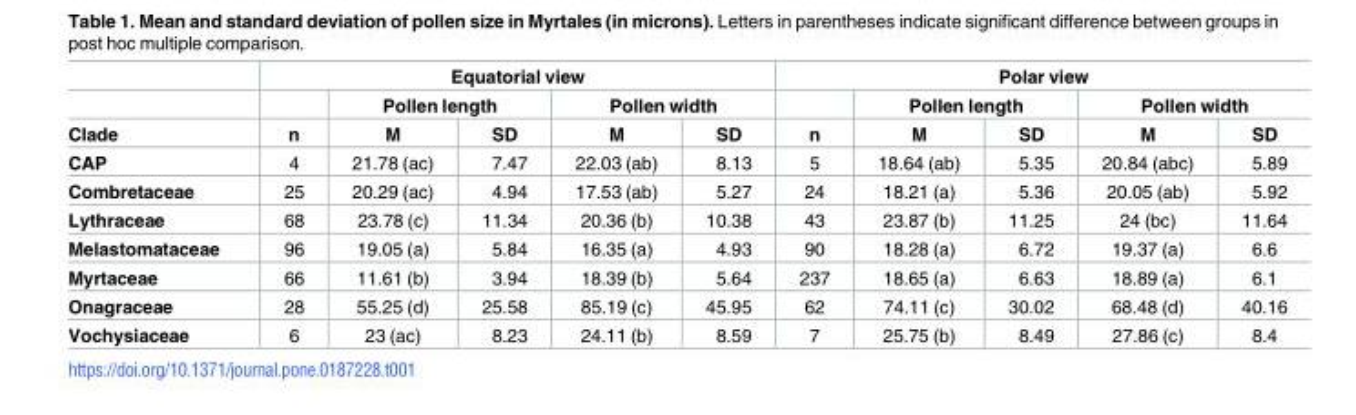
<table><thead><tr><td rowspan="3">Clade</td><td colspan="5">Equatorial view</td><td colspan="5">Polar view</td></tr><tr><td rowspan="2">n</td><td colspan="2">Pollen length</td><td colspan="2">Pollen width</td><td rowspan="2">n</td><td colspan="2">Pollen length</td><td colspan="2">Pollen width</td></tr><tr><td>M</td><td>SD</td><td>M</td><td>SD</td><td>M</td><td>SD</td><td>M</td><td>SD</td></tr></thead><tbody><tr><td>CAP</td><td>4</td><td>21.78 (ac)</td><td>7.47</td><td>22.03 (ab)</td><td>8.13</td><td>5</td><td>18.64 (ab)</td><td>5.35</td><td>20.84 (abc)</td><td>5.89</td></tr><tr><td>Combretaceae</td><td>25</td><td>20.29 (ac)</td><td>4.94</td><td>17.53 (ab)</td><td>5.27</td><td>24</td><td>18.21 (a)</td><td>5.36</td><td>20.05 (ab)</td><td>5.92</td></tr><tr><td>Lythraceae</td><td>68</td><td>23.78 (c)</td><td>11.34</td><td>20.36 (b)</td><td>10.38</td><td>43</td><td>23.87 (b)</td><td>11.25</td><td>24 (bc)</td><td>11.64</td></tr><tr><td>Melastomataceae</td><td>96</td><td>19.05 (a)</td><td>5.84</td><td>16.35 (a)</td><td>4.93</td><td>90</td><td>18.28 (a)</td><td>6.72</td><td>19.37 (a)</td><td>6.6</td></tr><tr><td>Myrtaceae</td><td>66</td><td>11.61 (b)</td><td>3.94</td><td>18.39 (b)</td><td>5.64</td><td>237</td><td>18.65 (a)</td><td>6.63</td><td>18.89 (a)</td><td>6.1</td></tr><tr><td>Onagraceae</td><td>28</td><td>55.25 (d)</td><td>25.58</td><td>85.19 (c)</td><td>45.95</td><td>62</td><td>74.11 (c)</td><td>30.02</td><td>68.48 (d)</td><td>40.16</td></tr><tr><td>Vochysiaceae</td><td>6</td><td>23 (ac)</td><td>8.23</td><td>24.11 (b)</td><td>8.59</td><td>7</td><td>25.75 (b)</td><td>8.49</td><td>27.86 (c)</td><td>8.4</td></tr></tbody></table>